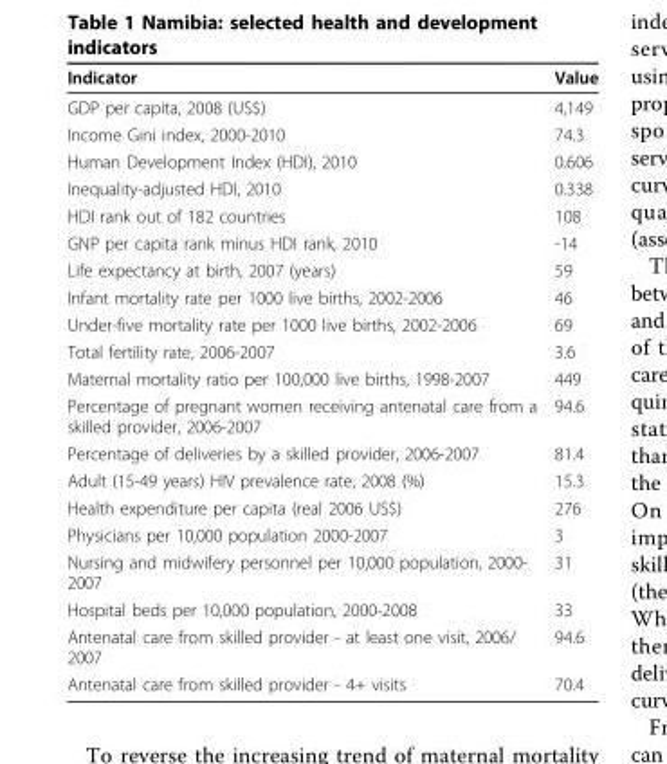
<table><thead><tr><td>Indicator</td><td>Value</td></tr></thead><tbody><tr><td>GDP per capita, 2008 (US$)</td><td>4,149</td></tr><tr><td>Income Gini index, 2000-2010</td><td>74.3</td></tr><tr><td>Human Development Index (HDI), 2010</td><td>0.606</td></tr><tr><td>Inequality-adjusted HDI, 2010</td><td>0.338</td></tr><tr><td>HDI rank out of 182 countries</td><td>108</td></tr><tr><td>GNP per capita rank minus HDI rank, 2010</td><td>-14</td></tr><tr><td>Life expectancy at birth, 2007 (years)</td><td>59</td></tr><tr><td>Infant mortality rate per 1000 live births, 2002-2006</td><td>46</td></tr><tr><td>Under-five mortality rate per 1000 live births, 2002-2006</td><td>69</td></tr><tr><td>Total fertility rate, 2006-2007</td><td>3.6</td></tr><tr><td>Maternal mortality ratio per 100,000 live births, 1998-2007</td><td>449</td></tr><tr><td>Percentage of pregnant women receiving antenatal care from a skilled provider, 2006-2007</td><td>94.6</td></tr><tr><td>Percentage of deliveries by a skilled provider, 2006-2007</td><td>81.4</td></tr><tr><td>Adult (15-49 years) HIV prevalence rate, 2008 (%)</td><td>15.3</td></tr><tr><td>Health expenditure per capita (real 2006 US$)</td><td>276</td></tr><tr><td>Physicians per 10,000 population 2000-2007</td><td>3</td></tr><tr><td>Nursing and midwifery personnel per 10,000 population, 2000- 2007</td><td>31</td></tr><tr><td>Hospital beds per 10,000 population, 2000-2008</td><td>33</td></tr><tr><td>Antenatal care from skilled provider - at least one visit, 2006/ 2007</td><td>94.6</td></tr><tr><td>Antenatal care from skilled provider - 4+ visits</td><td>70.4</td></tr></tbody></table>